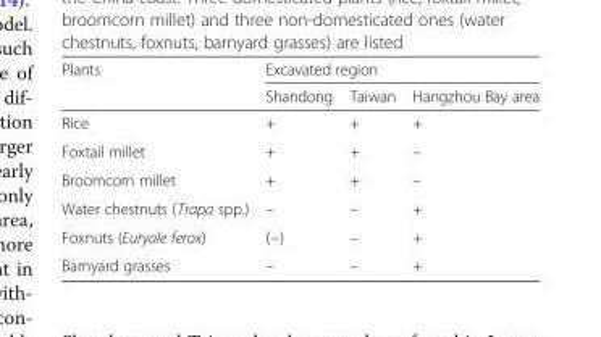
<table><thead><tr><td rowspan="2">Plants</td><td colspan="3">Excavated region</td></tr><tr><td>Shandong</td><td>Taiwan</td><td>Hangzhou Bay area</td></tr></thead><tbody><tr><td>Rice</td><td>+</td><td>+</td><td>+</td></tr><tr><td>Foxtail millet</td><td>+</td><td>+</td><td>–</td></tr><tr><td>Broomcorn millet</td><td>+</td><td>+</td><td>–</td></tr><tr><td>Water chestnuts (Trapa spp.)</td><td>–</td><td>–</td><td>+</td></tr><tr><td>Foxnuts (Euryale ferox)</td><td>(−)</td><td>–</td><td>+</td></tr><tr><td>Barnyard grasses</td><td>–</td><td>–</td><td>+</td></tr></tbody></table>